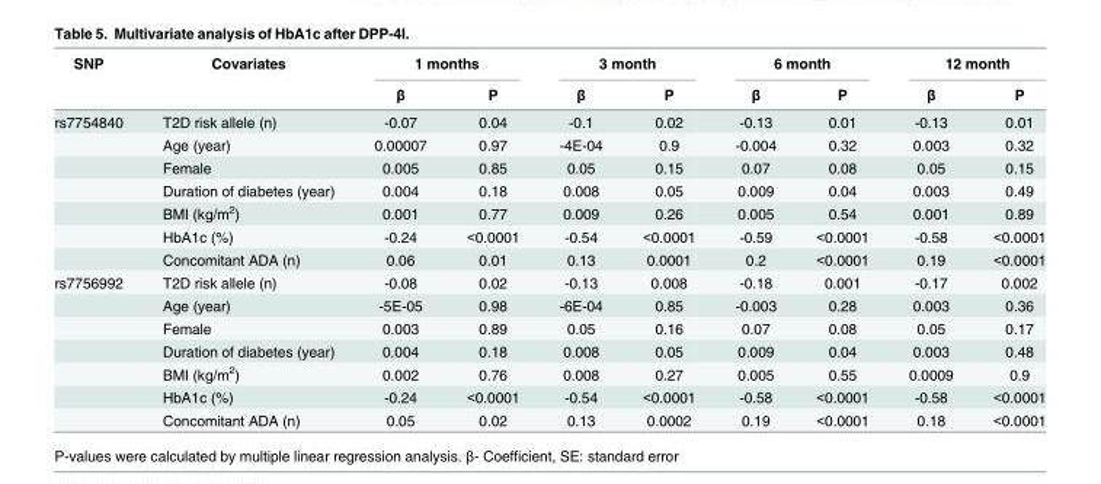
<table><thead><tr><td rowspan="2">SNP</td><td rowspan="2">Covariates</td><td colspan="2">1 months</td><td colspan="2">3 month</td><td colspan="2">6 month</td><td colspan="2">12 month</td></tr><tr><td>β</td><td>P</td><td>β</td><td>P</td><td>β</td><td>P</td><td>β</td><td>P</td></tr></thead><tbody><tr><td rowspan="7">rs7754840</td><td>T2D risk allele (n)</td><td>-0.07</td><td>0.04</td><td>-0.1</td><td>0.02</td><td>-0.13</td><td>0.01</td><td>-0.13</td><td>0.01</td></tr><tr><td>Age (year)</td><td>0.00007</td><td>0.97</td><td>-4E-04</td><td>0.9</td><td>-0.004</td><td>0.32</td><td>0.003</td><td>0.32</td></tr><tr><td>Female</td><td>0.005</td><td>0.85</td><td>0.05</td><td>0.15</td><td>0.07</td><td>0.08</td><td>0.05</td><td>0.15</td></tr><tr><td>Duration of diabetes (year)</td><td>0.004</td><td>0.18</td><td>0.008</td><td>0.05</td><td>0.009</td><td>0.04</td><td>0.003</td><td>0.49</td></tr><tr><td>BMI (kg/m<sup>2</sup>)</td><td>0.001</td><td>0.77</td><td>0.009</td><td>0.26</td><td>0.005</td><td>0.54</td><td>0.001</td><td>0.89</td></tr><tr><td>HbA1c (%)</td><td>-0.24</td><td>&lt;0.0001</td><td>-0.54</td><td>&lt;0.0001</td><td>-0.59</td><td>&lt;0.0001</td><td>-0.58</td><td>&lt;0.0001</td></tr><tr><td>Concomitant ADA (n)</td><td>0.06</td><td>0.01</td><td>0.13</td><td>0.0001</td><td>0.2</td><td>&lt;0.0001</td><td>0.19</td><td>&lt;0.0001</td></tr><tr><td rowspan="7">rs7756992</td><td>T2D risk allele (n)</td><td>-0.08</td><td>0.02</td><td>-0.13</td><td>0.008</td><td>-0.18</td><td>0.001</td><td>-0.17</td><td>0.002</td></tr><tr><td>Age (year)</td><td>-5E-05</td><td>0.98</td><td>-6E-04</td><td>0.85</td><td>-0.003</td><td>0.28</td><td>0.003</td><td>0.36</td></tr><tr><td>Female</td><td>0.003</td><td>0.89</td><td>0.05</td><td>0.16</td><td>0.07</td><td>0.08</td><td>0.05</td><td>0.17</td></tr><tr><td>Duration of diabetes (year)</td><td>0.004</td><td>0.18</td><td>0.008</td><td>0.05</td><td>0.009</td><td>0.04</td><td>0.003</td><td>0.48</td></tr><tr><td>BMI (kg/m<sup>2</sup>)</td><td>0.002</td><td>0.76</td><td>0.008</td><td>0.27</td><td>0.005</td><td>0.55</td><td>0.0009</td><td>0.9</td></tr><tr><td>HbA1c (%)</td><td>-0.24</td><td>&lt;0.0001</td><td>-0.54</td><td>&lt;0.0001</td><td>-0.58</td><td>&lt;0.0001</td><td>-0.58</td><td>&lt;0.0001</td></tr><tr><td>Concomitant ADA (n)</td><td>0.05</td><td>0.02</td><td>0.13</td><td>0.0002</td><td>0.19</td><td>&lt;0.0001</td><td>0.18</td><td>&lt;0.0001</td></tr></tbody></table>